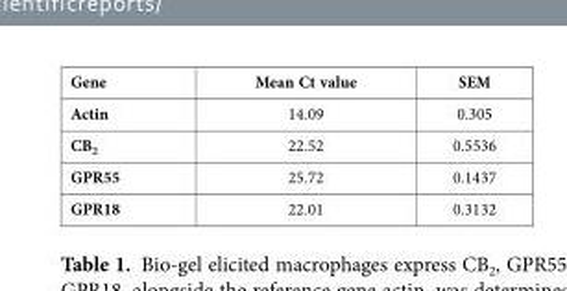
<table><tbody><tr><td>Gene</td><td>Mean Ct value</td><td>SEM</td></tr><tr><td>Actin</td><td>14.09</td><td>0.305</td></tr><tr><td>CB<sub>2</sub></td><td>22.52</td><td>0.5536</td></tr><tr><td>GPR55</td><td>25.72</td><td>0.1437</td></tr><tr><td>GPR18</td><td>22.01</td><td>0.3132</td></tr></tbody></table>